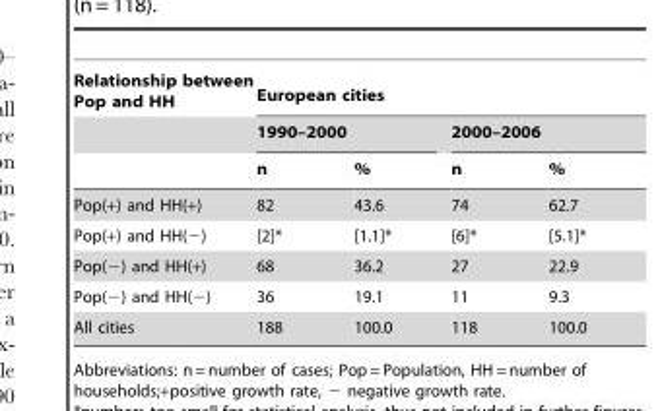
<table><thead><tr><td rowspan="3">Relationship between Pop and HH</td><td colspan="4">European cities</td></tr><tr><td colspan="2">1990–2000</td><td colspan="2">2000–2006</td></tr><tr><td>n</td><td>%</td><td>n</td><td>%</td></tr></thead><tbody><tr><td>Pop(+) and HH(+)</td><td>82</td><td>43.6</td><td>74</td><td>62.7</td></tr><tr><td>Pop(+) and HH(−)</td><td>[2]*</td><td>[1.1]*</td><td>[6]*</td><td>[5.1]*</td></tr><tr><td>Pop(−) and HH(+)</td><td>68</td><td>36.2</td><td>27</td><td>22.9</td></tr><tr><td>Pop(−) and HH(−)</td><td>36</td><td>19.1</td><td>11</td><td>9.3</td></tr><tr><td>All cities</td><td>188</td><td>100.0</td><td>118</td><td>100.0</td></tr></tbody></table>